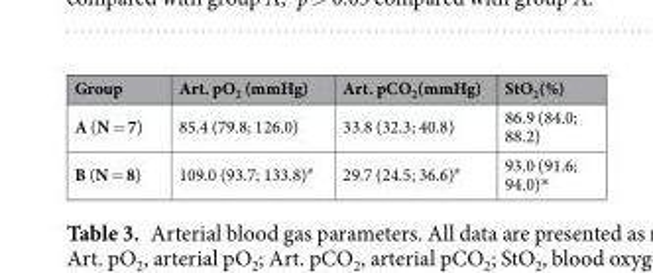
<table><thead><tr><td>Group</td><td>Art. pO<sub>2</sub> (mmHg)</td><td>Art. pCO<sub>2</sub>(mmHg)</td><td>StO<sub>2</sub>(%)</td></tr></thead><tbody><tr><td>A (N = 7)</td><td>85.4 (79.8; 126.0)</td><td>33.8 (32.3; 40.8)</td><td>86.9 (84.0; 88.2)</td></tr><tr><td>B (N = 8)</td><td>109.0 (93.7; 133.8)<sup>#</sup></td><td>29.7 (24.5; 36.6)<sup>#</sup></td><td>93.0 (91.6; 94.0)*</td></tr></tbody></table>